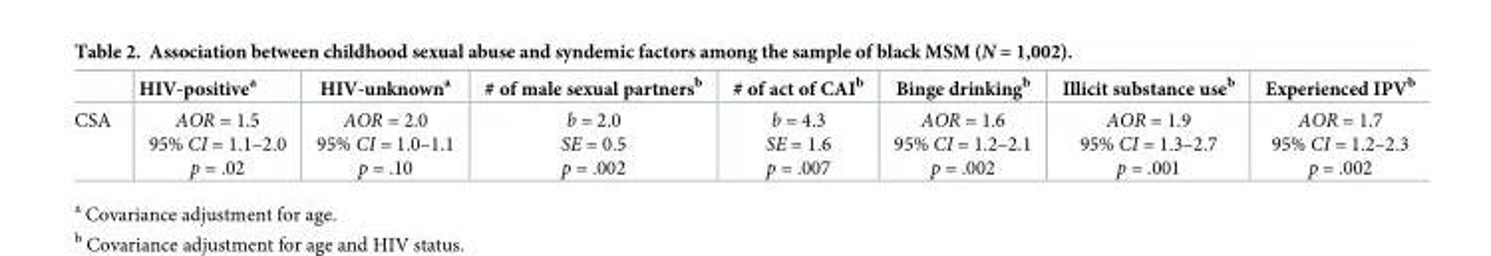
<table><thead><tr><td></td><td>HIV-positive<sup>a</sup></td><td>HIV-unknown<sup>a</sup></td><td># of male sexual partners<sup>b</sup></td><td># of act of CAI<sup>b</sup></td><td>Binge drinking<sup>b</sup></td><td>Illicit substance use<sup>b</sup></td><td>Experienced IPV<sup>b</sup></td></tr></thead><tbody><tr><td>CSA</td><td>AOR = 1.5 95% CI = 1.1–2.0 p = .02</td><td>AOR = 2.0 95% CI = 1.0–1.1 p = .10</td><td>b = 2.0 SE = 0.5 p = .002</td><td>b = 4.3 SE = 1.6 p = .007</td><td>AOR = 1.6 95% CI = 1.2–2.1 p = .002</td><td>AOR = 1.9 95% CI = 1.3–2.7 p = .001</td><td>AOR = 1.7 95% CI = 1.2–2.3 p = .002</td></tr></tbody></table>